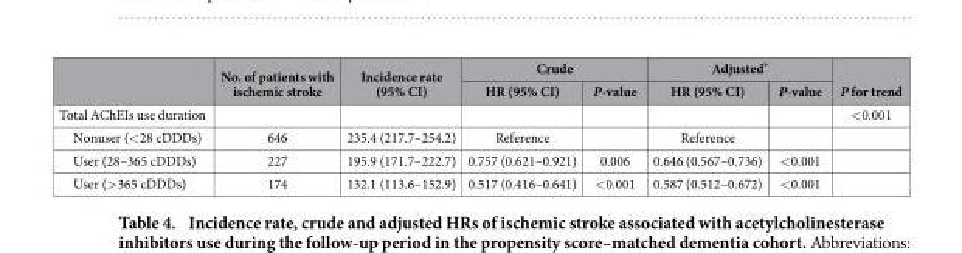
<table><thead><tr><td rowspan="2"></td><td rowspan="2">No. of patients with ischemic stroke</td><td rowspan="2">Incidence rate (95% CI)</td><td colspan="2">Crude</td><td colspan="2">Adjusted*</td><td rowspan="2">P for trend</td></tr><tr><td>HR (95% CI)</td><td>P-value</td><td>HR (95% CI)</td><td>P-value</td></tr></thead><tbody><tr><td>Total AChEIs use duration</td><td></td><td></td><td></td><td></td><td></td><td></td><td>&lt; 0.001</td></tr><tr><td>Nonuser (&lt; 28 cDDDs)</td><td>646</td><td>235.4 (217.7–254.2)</td><td>Reference</td><td></td><td>Reference</td><td></td><td></td></tr><tr><td>User (28–365 cDDDs)</td><td>227</td><td>195.9 (171.7–222.7)</td><td>0.757 (0.621–0.921)</td><td>0.006</td><td>0.646 (0.567–0.736)</td><td>&lt; 0.001</td><td></td></tr><tr><td>User (&gt; 365 cDDDs)</td><td>174</td><td>132.1 (113.6–152.9)</td><td>0.517 (0.416–0.641)</td><td>&lt; 0.001</td><td>0.587 (0.512–0.672)</td><td>&lt; 0.001</td><td></td></tr></tbody></table>